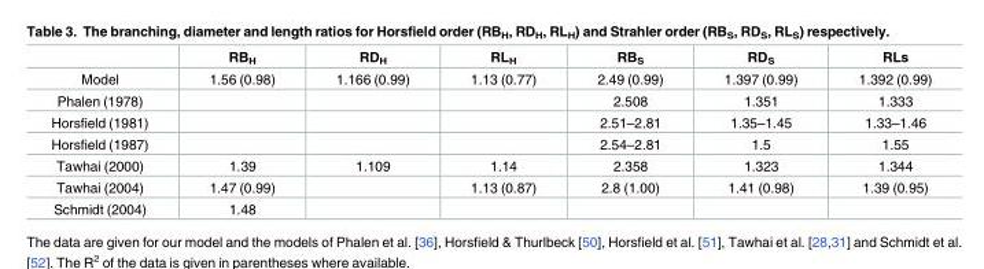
<table><thead><tr><td></td><td>RB<sub>H</sub></td><td>RD<sub>H</sub></td><td>RL<sub>H</sub></td><td>RB<sub>S</sub></td><td>RD<sub>S</sub></td><td>RLs</td></tr></thead><tbody><tr><td>Model</td><td>1.56 (0.98)</td><td>1.166 (0.99)</td><td>1.13 (0.77)</td><td>2.49 (0.99)</td><td>1.397 (0.99)</td><td>1.392 (0.99)</td></tr><tr><td>Phalen (1978)</td><td></td><td></td><td></td><td>2.508</td><td>1.351</td><td>1.333</td></tr><tr><td>Horsfield (1981)</td><td></td><td></td><td></td><td>2.51–2.81</td><td>1.35–1.45</td><td>1.33–1.46</td></tr><tr><td>Horsfield (1987)</td><td></td><td></td><td></td><td>2.54–2.81</td><td>1.5</td><td>1.55</td></tr><tr><td>Tawhai (2000)</td><td>1.39</td><td>1.109</td><td>1.14</td><td>2.358</td><td>1.323</td><td>1.344</td></tr><tr><td>Tawhai (2004)</td><td>1.47 (0.99)</td><td></td><td>1.13 (0.87)</td><td>2.8 (1.00)</td><td>1.41 (0.98)</td><td>1.39 (0.95)</td></tr><tr><td>Schmidt (2004)</td><td>1.48</td><td></td><td></td><td></td><td></td><td></td></tr></tbody></table>